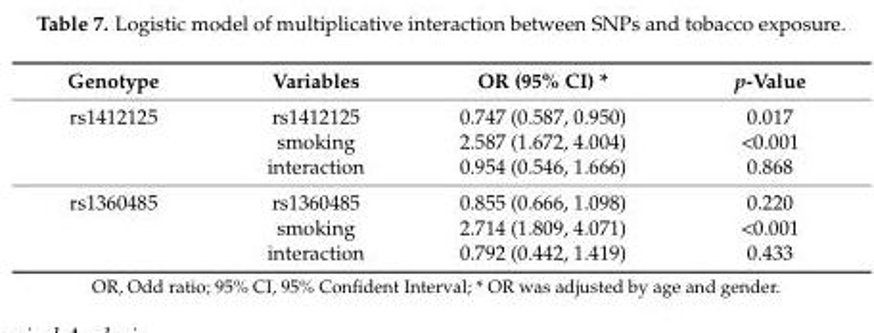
<table><thead><tr><td>Genotype</td><td>Variables</td><td>OR (95% CI) *</td><td>p-Value</td></tr></thead><tbody><tr><td rowspan="3">rs1412125</td><td>rs1412125</td><td>0.747 (0.587, 0.950)</td><td>0.017</td></tr><tr><td>smoking</td><td>2.587 (1.672, 4.004)</td><td>&lt;0.001</td></tr><tr><td>interaction</td><td>0.954 (0.546, 1.666)</td><td>0.868</td></tr><tr><td rowspan="3">rs1360485</td><td>rs1360485</td><td>0.855 (0.666, 1.098)</td><td>0.220</td></tr><tr><td>smoking</td><td>2.714 (1.809, 4.071)</td><td>&lt;0.001</td></tr><tr><td>interaction</td><td>0.792 (0.442, 1.419)</td><td>0.433</td></tr></tbody></table>